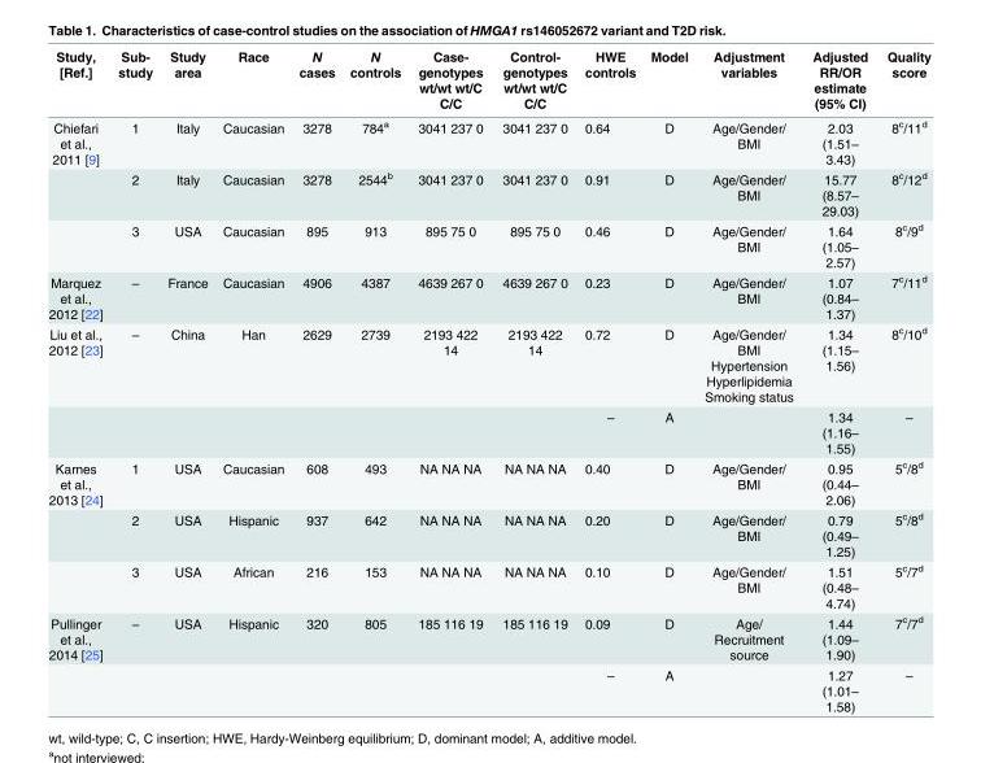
<table><thead><tr><td>Study, [Ref.]</td><td>Sub- study</td><td>Study area</td><td>Race</td><td>N cases</td><td>N controls</td><td>Case- genotypes wt/wt wt/C C/C</td><td>Control- genotypes wt/wt wt/C C/C</td><td>HWE controls</td><td>Model</td><td>Adjustment variables</td><td>Adjusted RR/OR estimate (95% CI)</td><td>Quality score</td></tr></thead><tbody><tr><td rowspan="3">Chiefari et al., 2011 [9]</td><td>1</td><td>Italy</td><td>Caucasian</td><td>3278</td><td>784<sup>a</sup></td><td>3041 237 0</td><td>3041 237 0</td><td>0.64</td><td>D</td><td>Age/Gender/ BMI</td><td>2.03 (1.51– 3.43)</td><td>8<sup>c</sup>/11<sup>d</sup></td></tr><tr><td>2</td><td>Italy</td><td>Caucasian</td><td>3278</td><td>2544<sup>b</sup></td><td>3041 237 0</td><td>3041 237 0</td><td>0.91</td><td>D</td><td>Age/Gender/ BMI</td><td>15.77 (8.57– 29.03)</td><td>8<sup>c</sup>/12<sup>d</sup></td></tr><tr><td>3</td><td>USA</td><td>Caucasian</td><td>895</td><td>913</td><td>895 75 0</td><td>895 75 0</td><td>0.46</td><td>D</td><td>Age/Gender/ BMI</td><td>1.64 (1.05– 2.57)</td><td>8<sup>c</sup>/9<sup>d</sup></td></tr><tr><td>Marquez et al., 2012 [22]</td><td>–</td><td>France</td><td>Caucasian</td><td>4906</td><td>4387</td><td>4639 267 0</td><td>4639 267 0</td><td>0.23</td><td>D</td><td>Age/Gender/ BMI</td><td>1.07 (0.84– 1.37)</td><td>7<sup>c</sup>/11<sup>d</sup></td></tr><tr><td rowspan="2">Liu et al., 2012 [23]</td><td>–</td><td>China</td><td>Han</td><td>2629</td><td>2739</td><td>2193 422 14</td><td>2193 422 14</td><td>0.72</td><td>D</td><td>Age/Gender/ BMI Hypertension Hyperlipidemia Smoking status</td><td>1.34 (1.15– 1.56)</td><td>8<sup>c</sup>/10<sup>d</sup></td></tr><tr><td></td><td></td><td></td><td></td><td></td><td></td><td></td><td>–</td><td>A</td><td></td><td>1.34 (1.16– 1.55)</td><td>–</td></tr><tr><td rowspan="3">Karnes et al., 2013 [24]</td><td>1</td><td>USA</td><td>Caucasian</td><td>608</td><td>493</td><td>NA NA NA</td><td>NA NA NA</td><td>0.40</td><td>D</td><td>Age/Gender/ BMI</td><td>0.95 (0.44– 2.06)</td><td>5<sup>c</sup>/8<sup>d</sup></td></tr><tr><td>2</td><td>USA</td><td>Hispanic</td><td>937</td><td>642</td><td>NA NA NA</td><td>NA NA NA</td><td>0.20</td><td>D</td><td>Age/Gender/ BMI</td><td>0.79 (0.49– 1.25)</td><td>5<sup>c</sup>/8<sup>d</sup></td></tr><tr><td>3</td><td>USA</td><td>African</td><td>216</td><td>153</td><td>NA NA NA</td><td>NA NA NA</td><td>0.10</td><td>D</td><td>Age/Gender/ BMI</td><td>1.51 (0.48– 4.74)</td><td>5<sup>c</sup>/7<sup>d</sup></td></tr><tr><td rowspan="2">Pullinger et al., 2014 [25]</td><td>–</td><td>USA</td><td>Hispanic</td><td>320</td><td>805</td><td>185 116 19</td><td>185 116 19</td><td>0.09</td><td>D</td><td>Age/ Recruitment source</td><td>1.44 (1.09– 1.90)</td><td>7<sup>c</sup>/7<sup>d</sup></td></tr><tr><td></td><td></td><td></td><td></td><td></td><td></td><td></td><td>–</td><td>A</td><td></td><td>1.27 (1.01– 1.58)</td><td>–</td></tr></tbody></table>